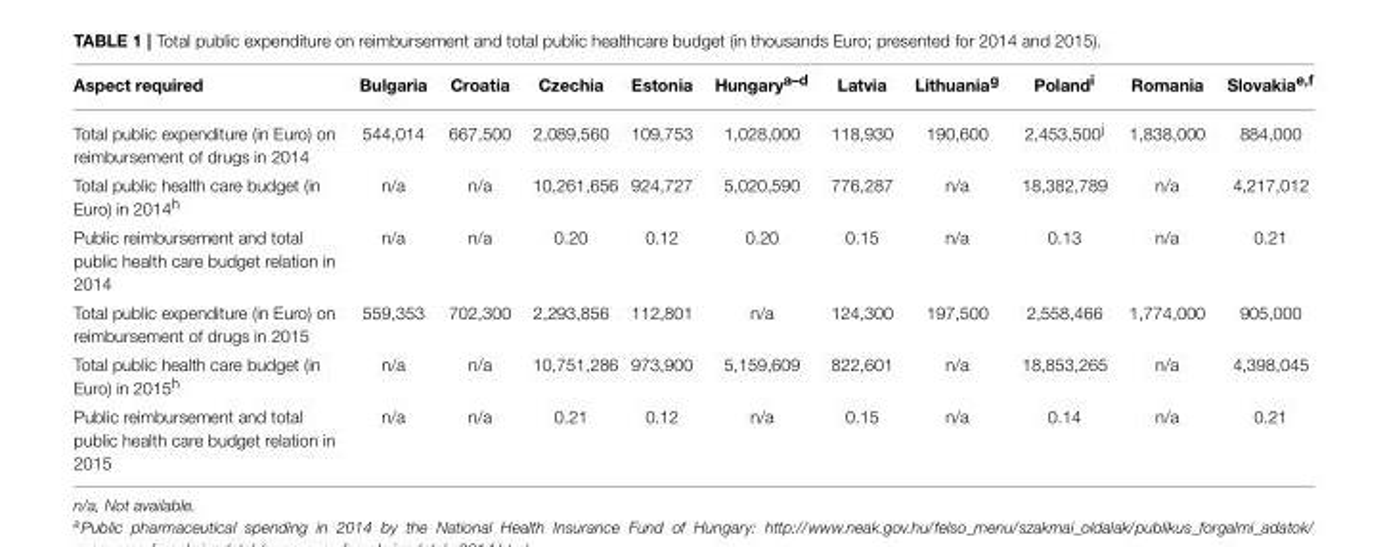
<table><thead><tr><td>Aspect required</td><td>Bulgaria</td><td>Croatia</td><td>Czechia</td><td>Estonia</td><td>Hungary<sup>a–d</sup></td><td>Latvia</td><td>Lithuania<sup>g</sup></td><td>Poland<sup>i</sup></td><td>Romania</td><td>Slovakia<sup>e,f</sup></td></tr></thead><tbody><tr><td>Total public expenditure (in Euro) on reimbursement of drugs in 2014</td><td>544,014</td><td>667,500</td><td>2,089,560</td><td>109,753</td><td>1,028,000</td><td>118,930</td><td>190,600</td><td>2,453,500<sup>j</sup></td><td>1,838,000</td><td>884,000</td></tr><tr><td>Total public health care budget (in Euro) in 2014<sup>h</sup></td><td>n/a</td><td>n/a</td><td>10,261,656</td><td>924,727</td><td>5,020,590</td><td>776,287</td><td>n/a</td><td>18,382,789</td><td>n/a</td><td>4,217,012</td></tr><tr><td>Public reimbursement and total public health care budget relation in 2014</td><td>n/a</td><td>n/a</td><td>0.20</td><td>0.12</td><td>0.20</td><td>0.15</td><td>n/a</td><td>0.13</td><td>n/a</td><td>0.21</td></tr><tr><td>Total public expenditure (in Euro) on reimbursement of drugs in 2015</td><td>559,353</td><td>702,300</td><td>2,293,856</td><td>112,801</td><td>n/a</td><td>124,300</td><td>197,500</td><td>2,558,466</td><td>1,774,000</td><td>905,000</td></tr><tr><td>Total public health care budget (in Euro) in 2015<sup>h</sup></td><td>n/a</td><td>n/a</td><td>10,751,286</td><td>973,900</td><td>5,159,609</td><td>822,601</td><td>n/a</td><td>18,853,265</td><td>n/a</td><td>4,398,045</td></tr><tr><td>Public reimbursement and total public health care budget relation in 2015</td><td>n/a</td><td>n/a</td><td>0.21</td><td>0.12</td><td>n/a</td><td>0.15</td><td>n/a</td><td>0.14</td><td>n/a</td><td>0.21</td></tr></tbody></table>